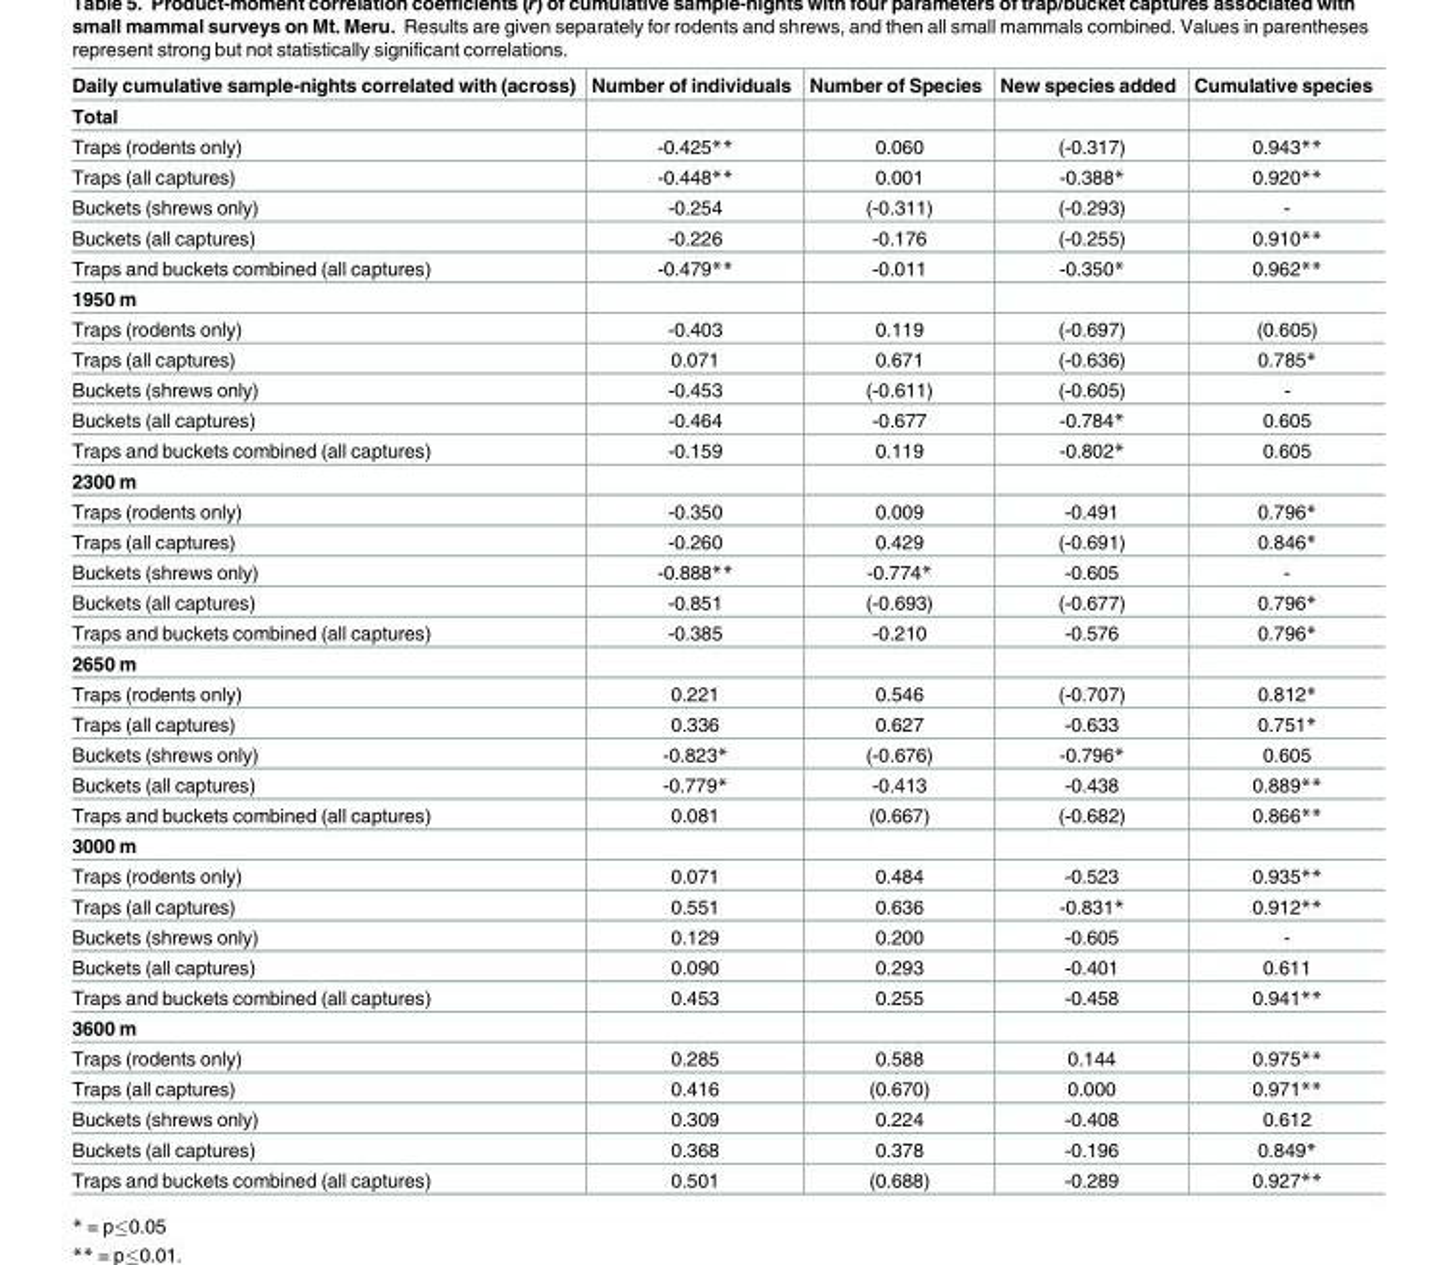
<table><thead><tr><td>Daily cumulative sample-nights correlated with (across)</td><td>Number of individuals</td><td>Number of Species</td><td>New species added</td><td>Cumulative species</td></tr></thead><tbody><tr><td colspan="5">Total</td></tr><tr><td>Traps (rodents only)</td><td>-0.425**</td><td>0.060</td><td>(-0.317)</td><td>0.943**</td></tr><tr><td>Traps (all captures)</td><td>-0.448**</td><td>0.001</td><td>-0.388*</td><td>0.920**</td></tr><tr><td>Buckets (shrews only)</td><td>-0.254</td><td>(-0.311)</td><td>(-0.293)</td><td>-</td></tr><tr><td>Buckets (all captures)</td><td>-0.226</td><td>-0.176</td><td>(-0.255)</td><td>0.910**</td></tr><tr><td>Traps and buckets combined (all captures)</td><td>-0.479**</td><td>-0.011</td><td>-0.350*</td><td>0.962**</td></tr><tr><td colspan="5">1950 m</td></tr><tr><td>Traps (rodents only)</td><td>-0.403</td><td>0.119</td><td>(-0.697)</td><td>(0.605)</td></tr><tr><td>Traps (all captures)</td><td>0.071</td><td>0.671</td><td>(-0.636)</td><td>0.785*</td></tr><tr><td>Buckets (shrews only)</td><td>-0.453</td><td>(-0.611)</td><td>(-0.605)</td><td>-</td></tr><tr><td>Buckets (all captures)</td><td>-0.464</td><td>-0.677</td><td>-0.784*</td><td>0.605</td></tr><tr><td>Traps and buckets combined (all captures)</td><td>-0.159</td><td>0.119</td><td>-0.802*</td><td>0.605</td></tr><tr><td colspan="5">2300 m</td></tr><tr><td>Traps (rodents only)</td><td>-0.350</td><td>0.009</td><td>-0.491</td><td>0.796*</td></tr><tr><td>Traps (all captures)</td><td>-0.260</td><td>0.429</td><td>(-0.691)</td><td>0.846*</td></tr><tr><td>Buckets (shrews only)</td><td>-0.888**</td><td>-0.774*</td><td>-0.605</td><td>-</td></tr><tr><td>Buckets (all captures)</td><td>-0.851</td><td>(-0.693)</td><td>(-0.677)</td><td>0.796*</td></tr><tr><td>Traps and buckets combined (all captures)</td><td>-0.385</td><td>-0.210</td><td>-0.576</td><td>0.796*</td></tr><tr><td colspan="5">2650 m</td></tr><tr><td>Traps (rodents only)</td><td>0.221</td><td>0.546</td><td>(-0.707)</td><td>0.812*</td></tr><tr><td>Traps (all captures)</td><td>0.336</td><td>0.627</td><td>-0.633</td><td>0.751*</td></tr><tr><td>Buckets (shrews only)</td><td>-0.823*</td><td>(-0.676)</td><td>-0.796*</td><td>0.605</td></tr><tr><td>Buckets (all captures)</td><td>-0.779*</td><td>-0.413</td><td>-0.438</td><td>0.889**</td></tr><tr><td>Traps and buckets combined (all captures)</td><td>0.081</td><td>(0.667)</td><td>(-0.682)</td><td>0.866**</td></tr><tr><td colspan="5">3000 m</td></tr><tr><td>Traps (rodents only)</td><td>0.071</td><td>0.484</td><td>-0.523</td><td>0.935**</td></tr><tr><td>Traps (all captures)</td><td>0.551</td><td>0.636</td><td>-0.831*</td><td>0.912**</td></tr><tr><td>Buckets (shrews only)</td><td>0.129</td><td>0.200</td><td>-0.605</td><td>-</td></tr><tr><td>Buckets (all captures)</td><td>0.090</td><td>0.293</td><td>-0.401</td><td>0.611</td></tr><tr><td>Traps and buckets combined (all captures)</td><td>0.453</td><td>0.255</td><td>-0.458</td><td>0.941**</td></tr><tr><td colspan="5">3600 m</td></tr><tr><td>Traps (rodents only)</td><td>0.285</td><td>0.588</td><td>0.144</td><td>0.975**</td></tr><tr><td>Traps (all captures)</td><td>0.416</td><td>(0.670)</td><td>0.000</td><td>0.971**</td></tr><tr><td>Buckets (shrews only)</td><td>0.309</td><td>0.224</td><td>-0.408</td><td>0.612</td></tr><tr><td>Buckets (all captures)</td><td>0.368</td><td>0.378</td><td>-0.196</td><td>0.849*</td></tr><tr><td>Traps and buckets combined (all captures)</td><td>0.501</td><td>(0.688)</td><td>-0.289</td><td>0.927**</td></tr></tbody></table>